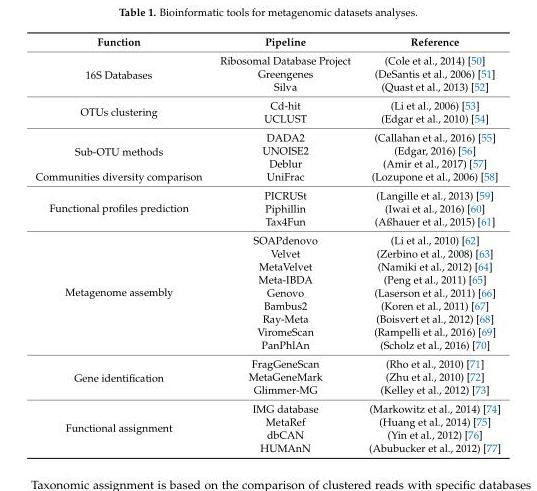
<table><thead><tr><td>Function</td><td>Pipeline</td><td>Reference</td></tr></thead><tbody><tr><td rowspan="3">16S Databases</td><td>Ribosomal Database Project</td><td>(Cole et al., 2014) [50]</td></tr><tr><td>Greengenes</td><td>(DeSantis et al., 2006) [51]</td></tr><tr><td>Silva</td><td>(Quast et al., 2013) [52]</td></tr><tr><td rowspan="2">OTUs clustering</td><td>Cd-hit</td><td>(Li et al., 2006) [53]</td></tr><tr><td>UCLUST</td><td>(Edgar et al., 2010) [54]</td></tr><tr><td rowspan="3">Sub-OTU methods</td><td>DADA2</td><td>(Callahan et al., 2016) [55]</td></tr><tr><td>UNOISE2</td><td>(Edgar, 2016) [56]</td></tr><tr><td>Deblur</td><td>(Amir et al., 2017) [57]</td></tr><tr><td>Communities diversity comparison</td><td>UniFrac</td><td>(Lozupone et al., 2006) [58]</td></tr><tr><td rowspan="3">Functional profiles prediction</td><td>PICRUSt</td><td>(Langille et al., 2013) [59]</td></tr><tr><td>Piphillin</td><td>(Iwai et al., 2016) [60]</td></tr><tr><td>Tax4Fun</td><td>(Aßhauer et al., 2015) [61]</td></tr><tr><td rowspan="9">Metagenome assembly</td><td>SOAPdenovo</td><td>(Li et al., 2010) [62]</td></tr><tr><td>Velvet</td><td>(Zerbino et al., 2008) [63]</td></tr><tr><td>MetaVelvet</td><td>(Namiki et al., 2012) [64]</td></tr><tr><td>Meta-IBDA</td><td>(Peng et al., 2011) [65]</td></tr><tr><td>Genovo</td><td>(Laserson et al., 2011) [66]</td></tr><tr><td>Bambus2</td><td>(Koren et al., 2011) [67]</td></tr><tr><td>Ray-Meta</td><td>(Boisvert et al., 2012) [68]</td></tr><tr><td>ViromeScan</td><td>(Rampelli et al., 2016) [69]</td></tr><tr><td>PanPhlAn</td><td>(Scholz et al., 2016) [70]</td></tr><tr><td rowspan="3">Gene identification</td><td>FragGeneScan</td><td>(Rho et al., 2010) [71]</td></tr><tr><td>MetaGeneMark</td><td>(Zhu et al., 2010) [72]</td></tr><tr><td>Glimmer-MG</td><td>(Kelley et al., 2012) [73]</td></tr><tr><td rowspan="4">Functional assignment</td><td>IMG database</td><td>(Markowitz et al., 2014) [74]</td></tr><tr><td>MetaRef</td><td>(Huang et al., 2014) [75]</td></tr><tr><td>dbCAN</td><td>(Yin et al., 2012) [76]</td></tr><tr><td>HUMAnN</td><td>(Abubucker et al., 2012) [77]</td></tr></tbody></table>